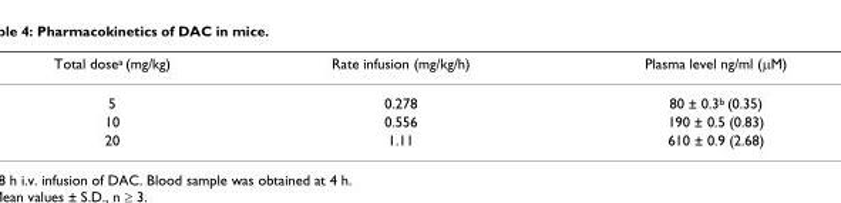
<table><thead><tr><td>Total dose<sup>a</sup> (mg/kg)</td><td>Rate infusion (mg/kg/h)</td><td>Plasma level ng/ml (µM)</td></tr></thead><tbody><tr><td>5</td><td>0.278</td><td>80 ± 0.3<sup>b</sup> (0.35)</td></tr><tr><td>10</td><td>0.556</td><td>190 ± 0.5 (0.83)</td></tr><tr><td>20</td><td>1.11</td><td>610 ± 0.9 (2.68)</td></tr></tbody></table>